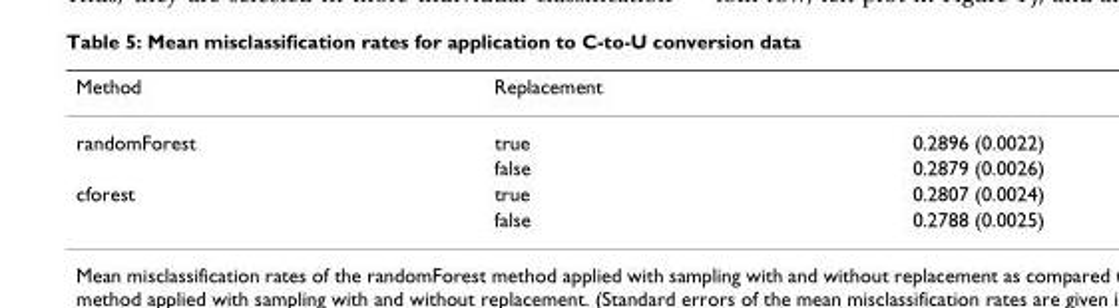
<table><thead><tr><td rowspan="2">Method randomForest</td><td colspan="2">Replacement</td></tr><tr><td>true</td><td>0.2896 (0.0022)</td></tr></thead><tbody><tr><td></td><td>false</td><td>0.2879 (0.0026)</td></tr><tr><td rowspan="2">cforest</td><td>true</td><td>0.2807 (0.0024)</td></tr><tr><td>false</td><td>0.2788 (0.0025)</td></tr></tbody></table>